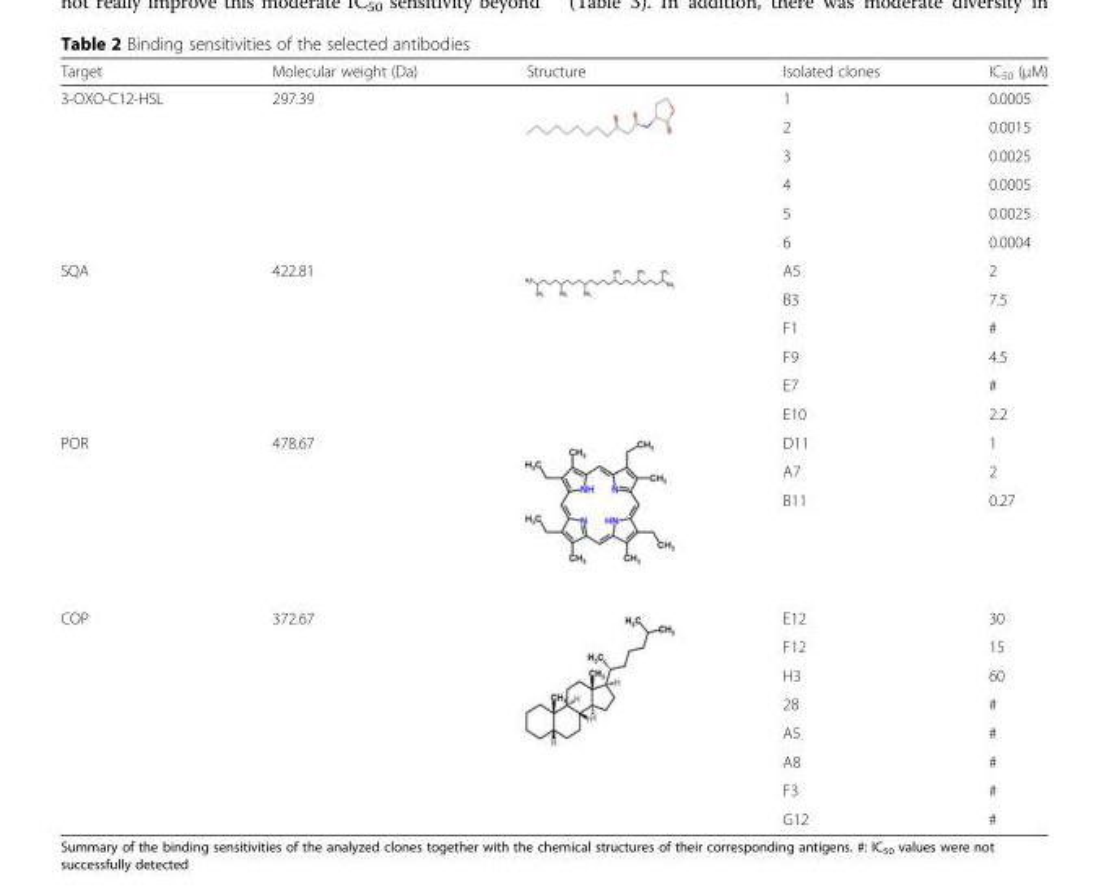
<table><thead><tr><td>Target</td><td>Molecular weight (Da)</td><td>Structure</td><td>Isolated clones</td><td>IC<sub>50</sub> (μM)</td></tr></thead><tbody><tr><td rowspan="6">3-OXO-C12-HSL</td><td rowspan="6">297.39</td><td rowspan="6"></td><td>1</td><td>0.0005</td></tr><tr><td>2</td><td>0.0015</td></tr><tr><td>3</td><td>0.0025</td></tr><tr><td>4</td><td>0.0005</td></tr><tr><td>5</td><td>0.0025</td></tr><tr><td>6</td><td>0.0004</td></tr><tr><td rowspan="6">SQA</td><td rowspan="6">422.81</td><td rowspan="6"></td><td>A5</td><td>2</td></tr><tr><td>B3</td><td>7.5</td></tr><tr><td>F1</td><td>#</td></tr><tr><td>F9</td><td>4.5</td></tr><tr><td>E7</td><td>#</td></tr><tr><td>E10</td><td>2.2</td></tr><tr><td rowspan="3">POR</td><td rowspan="3">478.67</td><td rowspan="3"></td><td>D11</td><td>1</td></tr><tr><td>A7</td><td>2</td></tr><tr><td>B11</td><td>0.27</td></tr><tr><td rowspan="8">COP</td><td rowspan="8">372.67</td><td rowspan="8"></td><td>E12</td><td>30</td></tr><tr><td>F12</td><td>15</td></tr><tr><td>H3</td><td>60</td></tr><tr><td>28</td><td>#</td></tr><tr><td>A5</td><td>#</td></tr><tr><td>A8</td><td>#</td></tr><tr><td>F3</td><td>#</td></tr><tr><td>G12</td><td>#</td></tr></tbody></table>